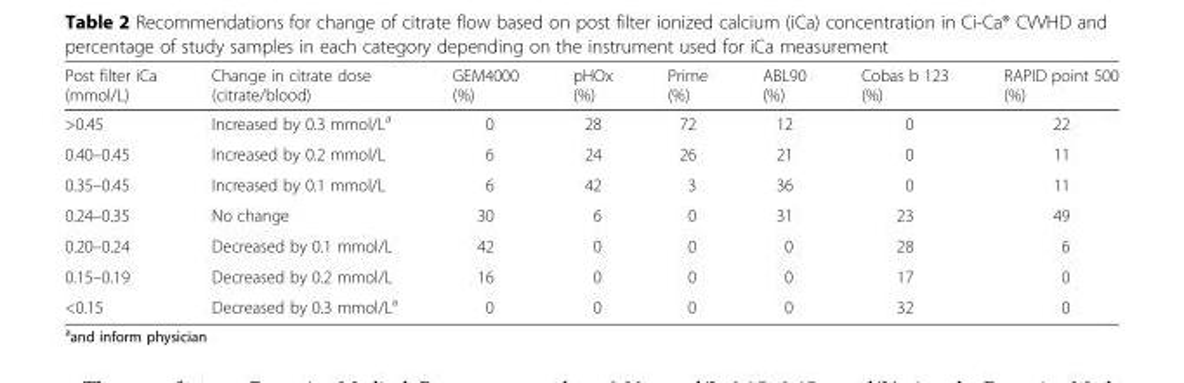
<table><thead><tr><td>Post filter iCa (mmol/L)</td><td>Change in citrate dose (citrate/blood)</td><td>GEM4000 (%)</td><td>pHOx (%)</td><td>Prime (%)</td><td>ABL90 (%)</td><td>Cobas b 123 (%)</td><td>RAPID point 500 (%)</td></tr></thead><tbody><tr><td>&gt;0.45</td><td>Increased by 0.3 mmol/L<sup>a</sup></td><td>0</td><td>28</td><td>72</td><td>12</td><td>0</td><td>22</td></tr><tr><td>0.40–0.45</td><td>Increased by 0.2 mmol/L</td><td>6</td><td>24</td><td>26</td><td>21</td><td>0</td><td>11</td></tr><tr><td>0.35–0.45</td><td>Increased by 0.1 mmol/L</td><td>6</td><td>42</td><td>3</td><td>36</td><td>0</td><td>11</td></tr><tr><td>0.24–0.35</td><td>No change</td><td>30</td><td>6</td><td>0</td><td>31</td><td>23</td><td>49</td></tr><tr><td>0.20–0.24</td><td>Decreased by 0.1 mmol/L</td><td>42</td><td>0</td><td>0</td><td>0</td><td>28</td><td>6</td></tr><tr><td>0.15–0.19</td><td>Decreased by 0.2 mmol/L</td><td>16</td><td>0</td><td>0</td><td>0</td><td>17</td><td>0</td></tr><tr><td>&lt;0.15</td><td>Decreased by 0.3 mmol/L<sup>a</sup></td><td>0</td><td>0</td><td>0</td><td>0</td><td>32</td><td>0</td></tr></tbody></table>